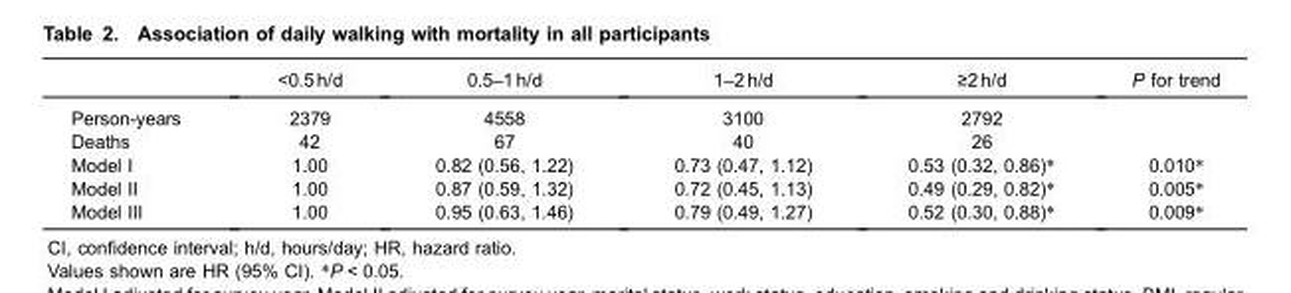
<table><thead><tr><td></td><td>&lt;0.5 h/d</td><td>0.5–1 h/d</td><td>1–2 h/d</td><td>≥2 h/d</td><td>P for trend</td></tr></thead><tbody><tr><td>Person-years</td><td>2379</td><td>4558</td><td>3100</td><td>2792</td><td></td></tr><tr><td>Deaths</td><td>42</td><td>67</td><td>40</td><td>26</td><td></td></tr><tr><td>Model I</td><td>1.00</td><td>0.82 (0.56, 1.22)</td><td>0.73 (0.47, 1.12)</td><td>0.53 (0.32, 0.86)*</td><td>0.010*</td></tr><tr><td>Model II</td><td>1.00</td><td>0.87 (0.59, 1.32)</td><td>0.72 (0.45, 1.13)</td><td>0.49 (0.29, 0.82)*</td><td>0.005*</td></tr><tr><td>Model III</td><td>1.00</td><td>0.95 (0.63, 1.46)</td><td>0.79 (0.49, 1.27)</td><td>0.52 (0.30, 0.88)*</td><td>0.009*</td></tr></tbody></table>